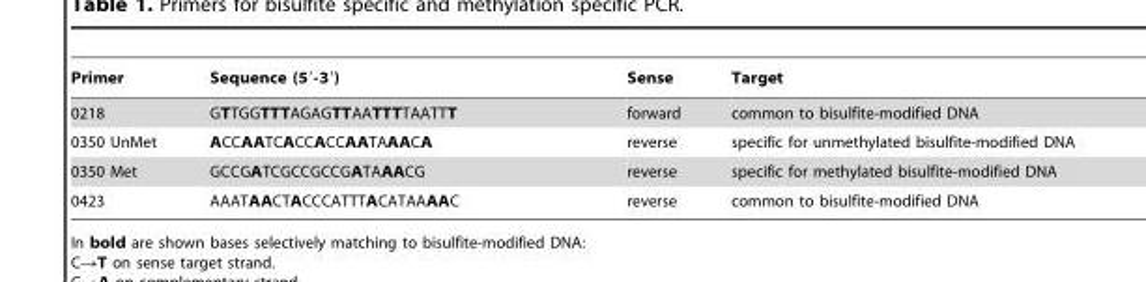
<table><thead><tr><td>Primer</td><td>Sequence (5′-3′)</td><td>Sense</td><td>Target</td></tr></thead><tbody><tr><td>0218</td><td>GTTGGTTTAGAGTTAATTTTAATTT</td><td>forward</td><td>common to bisulfite-modified DNA</td></tr><tr><td>0350 UnMet</td><td>ACCAATCACCACCAATAAACA</td><td>reverse</td><td>specific for unmethylated bisulfite-modified DNA</td></tr><tr><td>0350 Met</td><td>GCCGATCGCCGCCGATAAACG</td><td>reverse</td><td>specific for methylated bisulfite-modified DNA</td></tr><tr><td>0423</td><td>AAATAACTACCCATTTACATAAAAC</td><td>reverse</td><td>common to bisulfite-modified DNA</td></tr></tbody></table>